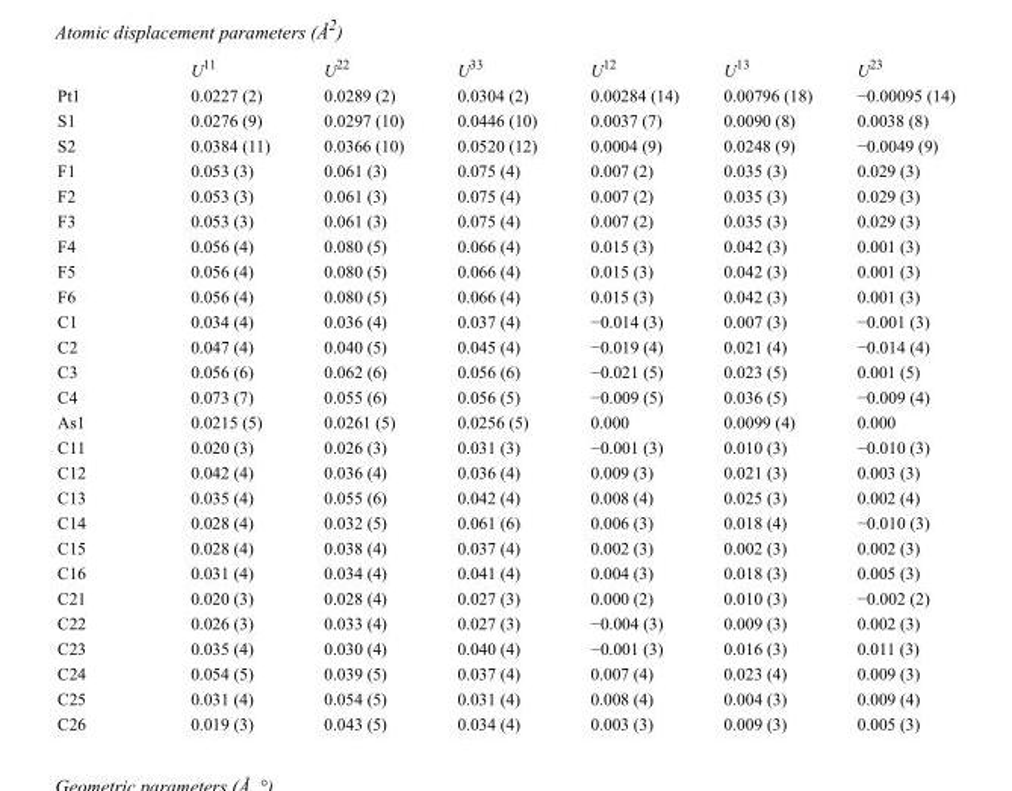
<table><thead><tr><td></td><td>U<sup>11</sup></td><td>U<sup>22</sup></td><td>U<sup>33</sup></td><td>U<sup>12</sup></td><td>U<sup>13</sup></td><td>U<sup>23</sup></td></tr></thead><tbody><tr><td>Pt1</td><td>0.0227 (2)</td><td>0.0289 (2)</td><td>0.0304 (2)</td><td>0.00284 (14)</td><td>0.00796 (18)</td><td>−0.00095 (14)</td></tr><tr><td>S1</td><td>0.0276 (9)</td><td>0.0297 (10)</td><td>0.0446 (10)</td><td>0.0037 (7)</td><td>0.0090 (8)</td><td>0.0038 (8)</td></tr><tr><td>S2</td><td>0.0384 (11)</td><td>0.0366 (10)</td><td>0.0520 (12)</td><td>0.0004 (9)</td><td>0.0248 (9)</td><td>−0.0049 (9)</td></tr><tr><td>F1</td><td>0.053 (3)</td><td>0.061 (3)</td><td>0.075 (4)</td><td>0.007 (2)</td><td>0.035 (3)</td><td>0.029 (3)</td></tr><tr><td>F2</td><td>0.053 (3)</td><td>0.061 (3)</td><td>0.075 (4)</td><td>0.007 (2)</td><td>0.035 (3)</td><td>0.029 (3)</td></tr><tr><td>F3</td><td>0.053 (3)</td><td>0.061 (3)</td><td>0.075 (4)</td><td>0.007 (2)</td><td>0.035 (3)</td><td>0.029 (3)</td></tr><tr><td>F4</td><td>0.056 (4)</td><td>0.080 (5)</td><td>0.066 (4)</td><td>0.015 (3)</td><td>0.042 (3)</td><td>0.001 (3)</td></tr><tr><td>F5</td><td>0.056 (4)</td><td>0.080 (5)</td><td>0.066 (4)</td><td>0.015 (3)</td><td>0.042 (3)</td><td>0.001 (3)</td></tr><tr><td>F6</td><td>0.056 (4)</td><td>0.080 (5)</td><td>0.066 (4)</td><td>0.015 (3)</td><td>0.042 (3)</td><td>0.001 (3)</td></tr><tr><td>C1</td><td>0.034 (4)</td><td>0.036 (4)</td><td>0.037 (4)</td><td>−0.014 (3)</td><td>0.007 (3)</td><td>−0.001 (3)</td></tr><tr><td>C2</td><td>0.047 (4)</td><td>0.040 (5)</td><td>0.045 (4)</td><td>−0.019 (4)</td><td>0.021 (4)</td><td>−0.014 (4)</td></tr><tr><td>C3</td><td>0.056 (6)</td><td>0.062 (6)</td><td>0.056 (6)</td><td>−0.021 (5)</td><td>0.023 (5)</td><td>0.001 (5)</td></tr><tr><td>C4</td><td>0.073 (7)</td><td>0.055 (6)</td><td>0.056 (5)</td><td>−0.009 (5)</td><td>0.036 (5)</td><td>−0.009 (4)</td></tr><tr><td>As1</td><td>0.0215 (5)</td><td>0.0261 (5)</td><td>0.0256 (5)</td><td>0.000</td><td>0.0099 (4)</td><td>0.000</td></tr><tr><td>C11</td><td>0.020 (3)</td><td>0.026 (3)</td><td>0.031 (3)</td><td>−0.001 (3)</td><td>0.010 (3)</td><td>−0.010 (3)</td></tr><tr><td>C12</td><td>0.042 (4)</td><td>0.036 (4)</td><td>0.036 (4)</td><td>0.009 (3)</td><td>0.021 (3)</td><td>0.003 (3)</td></tr><tr><td>C13</td><td>0.035 (4)</td><td>0.055 (6)</td><td>0.042 (4)</td><td>0.008 (4)</td><td>0.025 (3)</td><td>0.002 (4)</td></tr><tr><td>C14</td><td>0.028 (4)</td><td>0.032 (5)</td><td>0.061 (6)</td><td>0.006 (3)</td><td>0.018 (4)</td><td>−0.010 (3)</td></tr><tr><td>C15</td><td>0.028 (4)</td><td>0.038 (4)</td><td>0.037 (4)</td><td>0.002 (3)</td><td>0.002 (3)</td><td>0.002 (3)</td></tr><tr><td>C16</td><td>0.031 (4)</td><td>0.034 (4)</td><td>0.041 (4)</td><td>0.004 (3)</td><td>0.018 (3)</td><td>0.005 (3)</td></tr><tr><td>C21</td><td>0.020 (3)</td><td>0.028 (4)</td><td>0.027 (3)</td><td>0.000 (2)</td><td>0.010 (3)</td><td>−0.002 (2)</td></tr><tr><td>C22</td><td>0.026 (3)</td><td>0.033 (4)</td><td>0.027 (3)</td><td>−0.004 (3)</td><td>0.009 (3)</td><td>0.002 (3)</td></tr><tr><td>C23</td><td>0.035 (4)</td><td>0.030 (4)</td><td>0.040 (4)</td><td>−0.001 (3)</td><td>0.016 (3)</td><td>0.011 (3)</td></tr><tr><td>C24</td><td>0.054 (5)</td><td>0.039 (5)</td><td>0.037 (4)</td><td>0.007 (4)</td><td>0.023 (4)</td><td>0.009 (3)</td></tr><tr><td>C25</td><td>0.031 (4)</td><td>0.054 (5)</td><td>0.031 (4)</td><td>0.008 (4)</td><td>0.004 (3)</td><td>0.009 (4)</td></tr><tr><td>C26</td><td>0.019 (3)</td><td>0.043 (5)</td><td>0.034 (4)</td><td>0.003 (3)</td><td>0.009 (3)</td><td>0.005 (3)</td></tr></tbody></table>